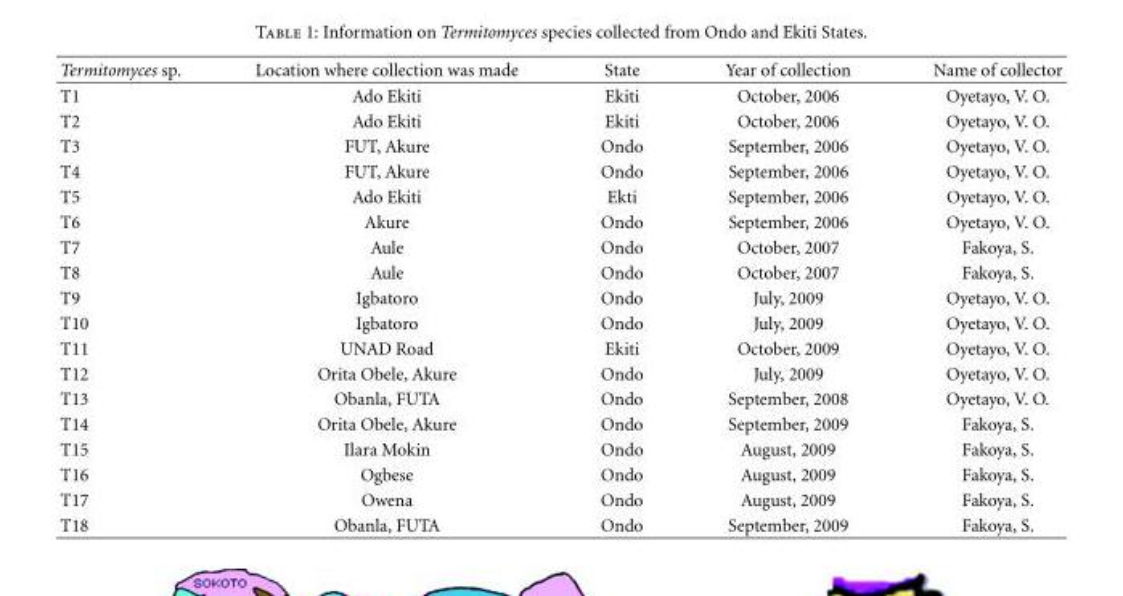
<table><thead><tr><td>Termitomyces sp.</td><td>Location where collection was made</td><td>State</td><td>Year of collection</td><td>Name of collector</td></tr></thead><tbody><tr><td>T1</td><td>Ado Ekiti</td><td>Ekiti</td><td>October, 2006</td><td>Oyetayo, V. O.</td></tr><tr><td>T2</td><td>Ado Ekiti</td><td>Ekiti</td><td>October, 2006</td><td>Oyetayo, V. O.</td></tr><tr><td>T3</td><td>FUT, Akure</td><td>Ondo</td><td>September, 2006</td><td>Oyetayo, V. O.</td></tr><tr><td>T4</td><td>FUT, Akure</td><td>Ondo</td><td>September, 2006</td><td>Oyetayo, V. O.</td></tr><tr><td>T5</td><td>Ado Ekiti</td><td>Ekti</td><td>September, 2006</td><td>Oyetayo, V. O.</td></tr><tr><td>T6</td><td>Akure</td><td>Ondo</td><td>September, 2006</td><td>Oyetayo, V. O.</td></tr><tr><td>T7</td><td>Aule</td><td>Ondo</td><td>October, 2007</td><td>Fakoya, S.</td></tr><tr><td>T8</td><td>Aule</td><td>Ondo</td><td>October, 2007</td><td>Fakoya, S.</td></tr><tr><td>T9</td><td>Igbatoro</td><td>Ondo</td><td>July, 2009</td><td>Oyetayo, V. O.</td></tr><tr><td>T10</td><td>Igbatoro</td><td>Ondo</td><td>July, 2009</td><td>Oyetayo, V. O.</td></tr><tr><td>T11</td><td>UNAD Road</td><td>Ekiti</td><td>October, 2009</td><td>Oyetayo, V. O.</td></tr><tr><td>T12</td><td>Orita Obele, Akure</td><td>Ondo</td><td>July, 2009</td><td>Oyetayo, V. O.</td></tr><tr><td>T13</td><td>Obanla, FUTA</td><td>Ondo</td><td>September, 2008</td><td>Oyetayo, V. O.</td></tr><tr><td>T14</td><td>Orita Obele, Akure</td><td>Ondo</td><td>September, 2009</td><td>Fakoya, S.</td></tr><tr><td>T15</td><td>Ilara Mokin</td><td>Ondo</td><td>August, 2009</td><td>Fakoya, S.</td></tr><tr><td>T16</td><td>Ogbese</td><td>Ondo</td><td>August, 2009</td><td>Fakoya, S.</td></tr><tr><td>T17</td><td>Owena</td><td>Ondo</td><td>August, 2009</td><td>Fakoya, S.</td></tr><tr><td>T18</td><td>Obanla, FUTA</td><td>Ondo</td><td>September, 2009</td><td>Fakoya, S.</td></tr></tbody></table>